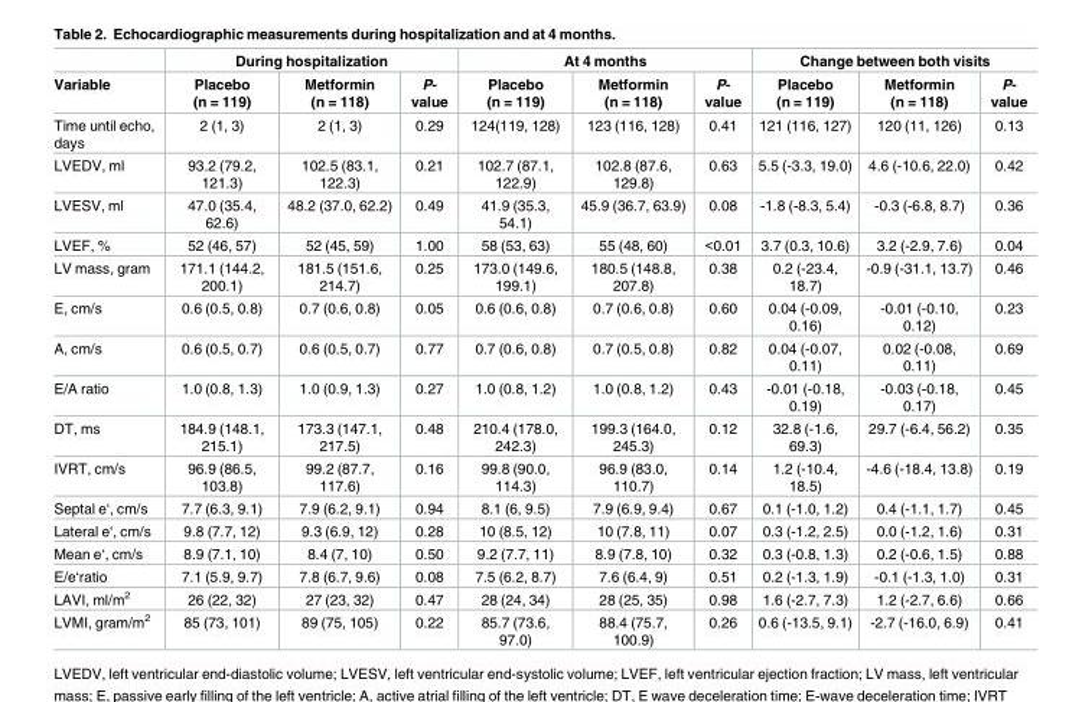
<table><thead><tr><td rowspan="2">Variable</td><td colspan="3">During hospitalization</td><td colspan="3">At 4 months</td><td colspan="3">Change between both visits</td></tr><tr><td>Placebo (n = 119)</td><td>Metformin (n = 118)</td><td>P- value</td><td>Placebo (n = 119)</td><td>Metformin (n = 118)</td><td>P- value</td><td>Placebo (n = 119)</td><td>Metformin (n = 118)</td><td>P- value</td></tr></thead><tbody><tr><td>Time until echo, days</td><td>2 (1, 3)</td><td>2 (1, 3)</td><td>0.29</td><td>124(119, 128)</td><td>123 (116, 128)</td><td>0.41</td><td>121 (116, 127)</td><td>120 (11, 126)</td><td>0.13</td></tr><tr><td>LVEDV, ml</td><td>93.2 (79.2, 121.3)</td><td>102.5 (83.1, 122.3)</td><td>0.21</td><td>102.7 (87.1, 122.9)</td><td>102.8 (87.6, 129.8)</td><td>0.63</td><td>5.5 (-3.3, 19.0)</td><td>4.6 (-10.6, 22.0)</td><td>0.42</td></tr><tr><td>LVESV, ml</td><td>47.0 (35.4, 62.6)</td><td>48.2 (37.0, 62.2)</td><td>0.49</td><td>41.9 (35.3, 54.1)</td><td>45.9 (36.7, 63.9)</td><td>0.08</td><td>-1.8 (-8.3, 5.4)</td><td>-0.3 (-6.8, 8.7)</td><td>0.36</td></tr><tr><td>LVEF, %</td><td>52 (46, 57)</td><td>52 (45, 59)</td><td>1.00</td><td>58 (53, 63)</td><td>55 (48, 60)</td><td>&lt;0.01</td><td>3.7 (0.3, 10.6)</td><td>3.2 (-2.9, 7.6)</td><td>0.04</td></tr><tr><td>LV mass, gram</td><td>171.1 (144.2, 200.1)</td><td>181.5 (151.6, 214.7)</td><td>0.25</td><td>173.0 (149.6, 199.1)</td><td>180.5 (148.8, 207.8)</td><td>0.38</td><td>0.2 (-23.4, 18.7)</td><td>-0.9 (-31.1, 13.7)</td><td>0.46</td></tr><tr><td>E, cm/s</td><td>0.6 (0.5, 0.8)</td><td>0.7 (0.6, 0.8)</td><td>0.05</td><td>0.6 (0.6, 0.8)</td><td>0.7 (0.6, 0.8)</td><td>0.60</td><td>0.04 (-0.09, 0.16)</td><td>-0.01 (-0.10, 0.12)</td><td>0.23</td></tr><tr><td>A, cm/s</td><td>0.6 (0.5, 0.7)</td><td>0.6 (0.5, 0.7)</td><td>0.77</td><td>0.7 (0.6, 0.8)</td><td>0.7 (0.5, 0.8)</td><td>0.82</td><td>0.04 (-0.07, 0.11)</td><td>0.02 (-0.08, 0.11)</td><td>0.69</td></tr><tr><td>E/A ratio</td><td>1.0 (0.8, 1.3)</td><td>1.0 (0.9, 1.3)</td><td>0.27</td><td>1.0 (0.8, 1.2)</td><td>1.0 (0.8, 1.2)</td><td>0.43</td><td>-0.01 (-0.18, 0.19)</td><td>-0.03 (-0.18, 0.17)</td><td>0.45</td></tr><tr><td>DT, ms</td><td>184.9 (148.1, 215.1)</td><td>173.3 (147.1, 217.5)</td><td>0.48</td><td>210.4 (178.0, 242.3)</td><td>199.3 (164.0, 245.3)</td><td>0.12</td><td>32.8 (-1.6, 69.3)</td><td>29.7 (-6.4, 56.2)</td><td>0.35</td></tr><tr><td>IVRT, cm/s</td><td>96.9 (86.5, 103.8)</td><td>99.2 (87.7, 117.6)</td><td>0.16</td><td>99.8 (90.0, 114.3)</td><td>96.9 (83.0, 110.7)</td><td>0.14</td><td>1.2 (-10.4, 18.5)</td><td>-4.6 (-18.4, 13.8)</td><td>0.19</td></tr><tr><td>Septal e‘, cm/s</td><td>7.7 (6.3, 9.1)</td><td>7.9 (6.2, 9.1)</td><td>0.94</td><td>8.1 (6, 9.5)</td><td>7.9 (6.9, 9.4)</td><td>0.67</td><td>0.1 (-1.0, 1.2)</td><td>0.4 (-1.1, 1.7)</td><td>0.45</td></tr><tr><td>Lateral e‘, cm/s</td><td>9.8 (7.7, 12)</td><td>9.3 (6.9, 12)</td><td>0.28</td><td>10 (8.5, 12)</td><td>10 (7.8, 11)</td><td>0.07</td><td>0.3 (-1.2, 2.5)</td><td>0.0 (-1.2, 1.6)</td><td>0.31</td></tr><tr><td>Mean e‘, cm/s</td><td>8.9 (7.1, 10)</td><td>8.4 (7, 10)</td><td>0.50</td><td>9.2 (7.7, 11)</td><td>8.9 (7.8, 10)</td><td>0.32</td><td>0.3 (-0.8, 1.3)</td><td>0.2 (-0.6, 1.5)</td><td>0.88</td></tr><tr><td>E/e‘ratio</td><td>7.1 (5.9, 9.7)</td><td>7.8 (6.7, 9.6)</td><td>0.08</td><td>7.5 (6.2, 8.7)</td><td>7.6 (6.4, 9)</td><td>0.51</td><td>0.2 (-1.3, 1.9)</td><td>-0.1 (-1.3, 1.0)</td><td>0.31</td></tr><tr><td>LAVI, ml/m<sup>2</sup></td><td>26 (22, 32)</td><td>27 (23, 32)</td><td>0.47</td><td>28 (24, 34)</td><td>28 (25, 35)</td><td>0.98</td><td>1.6 (-2.7, 7.3)</td><td>1.2 (-2.7, 6.6)</td><td>0.66</td></tr><tr><td>LVMI, gram/m<sup>2</sup></td><td>85 (73, 101)</td><td>89 (75, 105)</td><td>0.22</td><td>85.7 (73.6, 97.0)</td><td>88.4 (75.7, 100.9)</td><td>0.26</td><td>0.6 (-13.5, 9.1)</td><td>-2.7 (-16.0, 6.9)</td><td>0.41</td></tr></tbody></table>